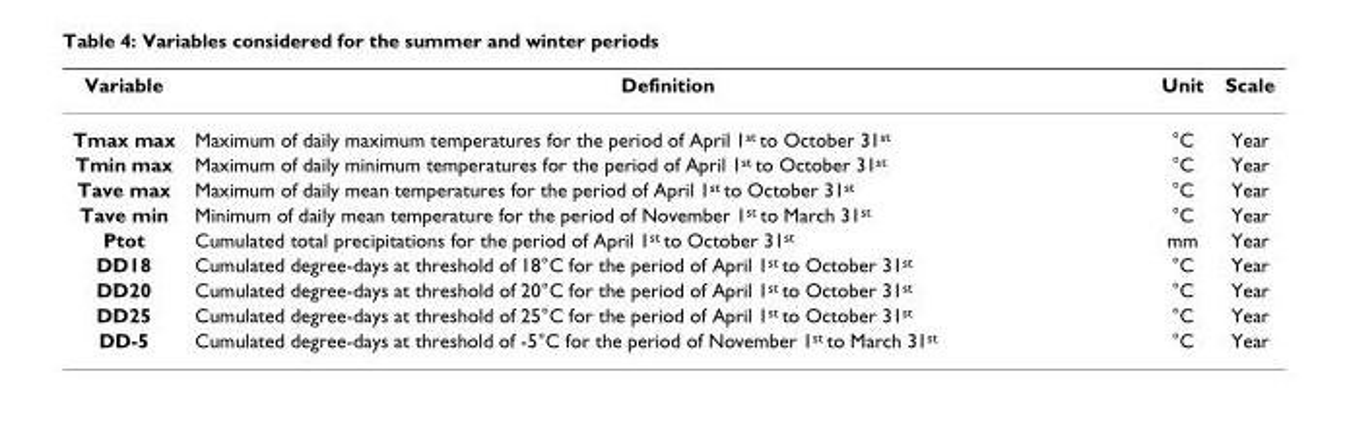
<table><thead><tr><td>Variable</td><td>Definition</td><td>Unit</td><td>Scale</td></tr></thead><tbody><tr><td>Tmax max</td><td>Maximum of daily maximum temperatures for the period of April 1<sup>st</sup> to October 31<sup>st</sup></td><td>°C</td><td>Year</td></tr><tr><td>Tmin max</td><td>Maximum of daily minimum temperatures for the period of April 1<sup>st</sup> to October 31<sup>st</sup></td><td>°C</td><td>Year</td></tr><tr><td>Tave max</td><td>Maximum of daily mean temperatures for the period of April 1<sup>st</sup> to October 31<sup>st</sup></td><td>°C</td><td>Year</td></tr><tr><td>Tave min</td><td>Minimum of daily mean temperature for the period of November 1<sup>st</sup> to March 31<sup>st</sup></td><td>°C</td><td>Year</td></tr><tr><td>Ptot</td><td>Cumulated total precipitations for the period of April 1<sup>st</sup> to October 31<sup>st</sup></td><td>mm</td><td>Year</td></tr><tr><td>DD18</td><td>Cumulated degree-days at threshold of 18°C for the period of April 1<sup>st</sup> to October 31<sup>st</sup></td><td>°C</td><td>Year</td></tr><tr><td>DD20</td><td>Cumulated degree-days at threshold of 20°C for the period of April 1<sup>st</sup> to October 31<sup>st</sup></td><td>°C</td><td>Year</td></tr><tr><td>DD25</td><td>Cumulated degree-days at threshold of 25°C for the period of April 1<sup>st</sup> to October 31<sup>st</sup></td><td>°C</td><td>Year</td></tr><tr><td>DD-5</td><td>Cumulated degree-days at threshold of -5°C for the period of November 1<sup>st</sup> to March 31<sup>st</sup></td><td>°C</td><td>Year</td></tr></tbody></table>